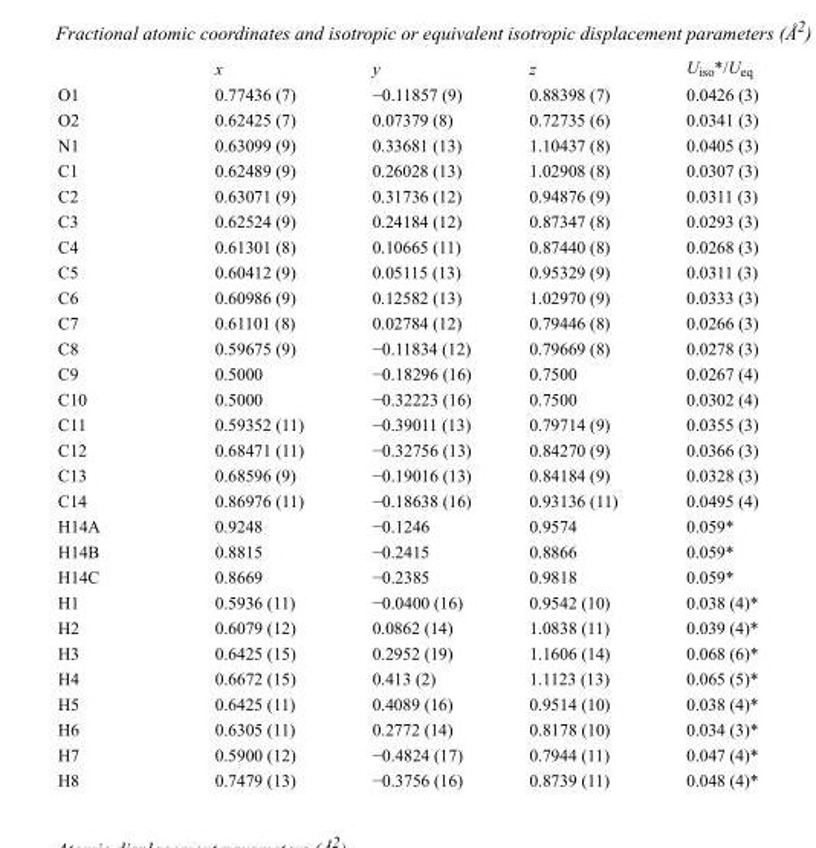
<table><thead><tr><td></td><td>x</td><td>y</td><td>z</td><td>U<sub>iso</sub>*/U<sub>eq</sub></td></tr></thead><tbody><tr><td>O1</td><td>0.77436 (7)</td><td>−0.11857 (9)</td><td>0.88398 (7)</td><td>0.0426 (3)</td></tr><tr><td>O2</td><td>0.62425 (7)</td><td>0.07379 (8)</td><td>0.72735 (6)</td><td>0.0341 (3)</td></tr><tr><td>N1</td><td>0.63099 (9)</td><td>0.33681 (13)</td><td>1.10437 (8)</td><td>0.0405 (3)</td></tr><tr><td>C1</td><td>0.62489 (9)</td><td>0.26028 (13)</td><td>1.02908 (8)</td><td>0.0307 (3)</td></tr><tr><td>C2</td><td>0.63071 (9)</td><td>0.31736 (12)</td><td>0.94876 (9)</td><td>0.0311 (3)</td></tr><tr><td>C3</td><td>0.62524 (9)</td><td>0.24184 (12)</td><td>0.87347 (8)</td><td>0.0293 (3)</td></tr><tr><td>C4</td><td>0.61301 (8)</td><td>0.10665 (11)</td><td>0.87440 (8)</td><td>0.0268 (3)</td></tr><tr><td>C5</td><td>0.60412 (9)</td><td>0.05115 (13)</td><td>0.95329 (9)</td><td>0.0311 (3)</td></tr><tr><td>C6</td><td>0.60986 (9)</td><td>0.12582 (13)</td><td>1.02970 (9)</td><td>0.0333 (3)</td></tr><tr><td>C7</td><td>0.61101 (8)</td><td>0.02784 (12)</td><td>0.79446 (8)</td><td>0.0266 (3)</td></tr><tr><td>C8</td><td>0.59675 (9)</td><td>−0.11834 (12)</td><td>0.79669 (8)</td><td>0.0278 (3)</td></tr><tr><td>C9</td><td>0.5000</td><td>−0.18296 (16)</td><td>0.7500</td><td>0.0267 (4)</td></tr><tr><td>C10</td><td>0.5000</td><td>−0.32223 (16)</td><td>0.7500</td><td>0.0302 (4)</td></tr><tr><td>C11</td><td>0.59352 (11)</td><td>−0.39011 (13)</td><td>0.79714 (9)</td><td>0.0355 (3)</td></tr><tr><td>C12</td><td>0.68471 (11)</td><td>−0.32756 (13)</td><td>0.84270 (9)</td><td>0.0366 (3)</td></tr><tr><td>C13</td><td>0.68596 (9)</td><td>−0.19016 (13)</td><td>0.84184 (9)</td><td>0.0328 (3)</td></tr><tr><td>C14</td><td>0.86976 (11)</td><td>−0.18638 (16)</td><td>0.93136 (11)</td><td>0.0495 (4)</td></tr><tr><td>H14A</td><td>0.9248</td><td>−0.1246</td><td>0.9574</td><td>0.059*</td></tr><tr><td>H14B</td><td>0.8815</td><td>−0.2415</td><td>0.8866</td><td>0.059*</td></tr><tr><td>H14C</td><td>0.8669</td><td>−0.2385</td><td>0.9818</td><td>0.059*</td></tr><tr><td>H1</td><td>0.5936 (11)</td><td>−0.0400 (16)</td><td>0.9542 (10)</td><td>0.038 (4)*</td></tr><tr><td>H2</td><td>0.6079 (12)</td><td>0.0862 (14)</td><td>1.0838 (11)</td><td>0.039 (4)*</td></tr><tr><td>H3</td><td>0.6425 (15)</td><td>0.2952 (19)</td><td>1.1606 (14)</td><td>0.068 (6)*</td></tr><tr><td>H4</td><td>0.6672 (15)</td><td>0.413 (2)</td><td>1.1123 (13)</td><td>0.065 (5)*</td></tr><tr><td>H5</td><td>0.6425 (11)</td><td>0.4089 (16)</td><td>0.9514 (10)</td><td>0.038 (4)*</td></tr><tr><td>H6</td><td>0.6305 (11)</td><td>0.2772 (14)</td><td>0.8178 (10)</td><td>0.034 (3)*</td></tr><tr><td>H7</td><td>0.5900 (12)</td><td>−0.4824 (17)</td><td>0.7944 (11)</td><td>0.047 (4)*</td></tr><tr><td>H8</td><td>0.7479 (13)</td><td>−0.3756 (16)</td><td>0.8739 (11)</td><td>0.048 (4)*</td></tr></tbody></table>